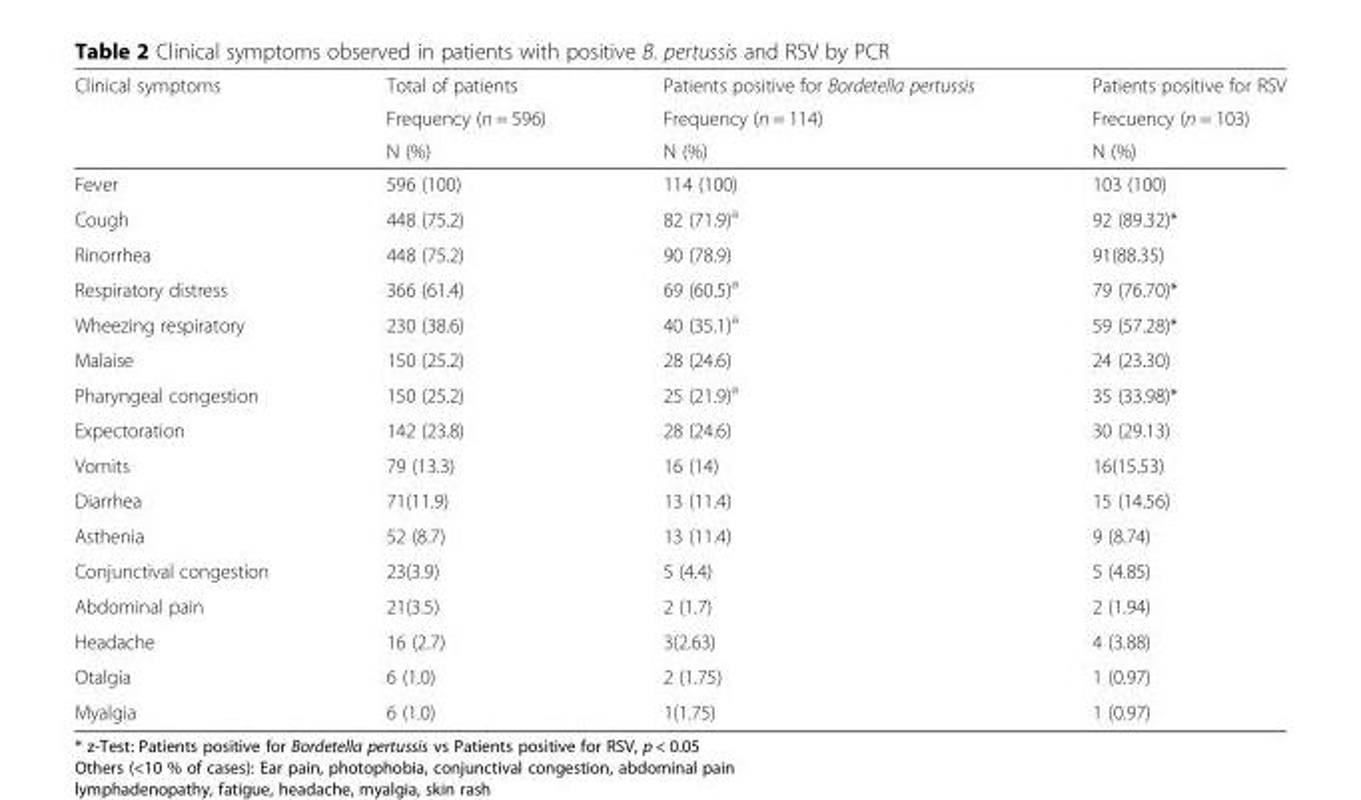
<table><thead><tr><td rowspan="3">Clinical symptoms</td><td rowspan="3">Total of patients Frequency (n = 596) N (%)</td><td rowspan="3">Patients positive for Bordetella pertussis Frequency (n = 114) N (%)</td><td rowspan="3">Patients positive for RSV Frecuency (n = 103) N (%)</td></tr><tr></tr><tr></tr></thead><tbody><tr><td>Fever</td><td>596 (100)</td><td>114 (100)</td><td>103 (100)</td></tr><tr><td>Cough</td><td>448 (75.2)</td><td>82 (71.9)<sup>a</sup></td><td>92 (89.32)*</td></tr><tr><td>Rinorrhea</td><td>448 (75.2)</td><td>90 (78.9)</td><td>91(88.35)</td></tr><tr><td>Respiratory distress</td><td>366 (61.4)</td><td>69 (60.5)<sup>a</sup></td><td>79 (76.70)*</td></tr><tr><td>Wheezing respiratory</td><td>230 (38.6)</td><td>40 (35.1)<sup>a</sup></td><td>59 (57.28)*</td></tr><tr><td>Malaise</td><td>150 (25.2)</td><td>28 (24.6)</td><td>24 (23.30)</td></tr><tr><td>Pharyngeal congestion</td><td>150 (25.2)</td><td>25 (21.9)<sup>a</sup></td><td>35 (33.98)*</td></tr><tr><td>Expectoration</td><td>142 (23.8)</td><td>28 (24.6)</td><td>30 (29.13)</td></tr><tr><td>Vomits</td><td>79 (13.3)</td><td>16 (14)</td><td>16(15.53)</td></tr><tr><td>Diarrhea</td><td>71(11.9)</td><td>13 (11.4)</td><td>15 (14.56)</td></tr><tr><td>Asthenia</td><td>52 (8.7)</td><td>13 (11.4)</td><td>9 (8.74)</td></tr><tr><td>Conjunctival congestion</td><td>23(3.9)</td><td>5 (4.4)</td><td>5 (4.85)</td></tr><tr><td>Abdominal pain</td><td>21(3.5)</td><td>2 (1.7)</td><td>2 (1.94)</td></tr><tr><td>Headache</td><td>16 (2.7)</td><td>3(2.63)</td><td>4 (3.88)</td></tr><tr><td>Otalgia</td><td>6 (1.0)</td><td>2 (1.75)</td><td>1 (0.97)</td></tr><tr><td>Myalgia</td><td>6 (1.0)</td><td>1(1.75)</td><td>1 (0.97)</td></tr></tbody></table>